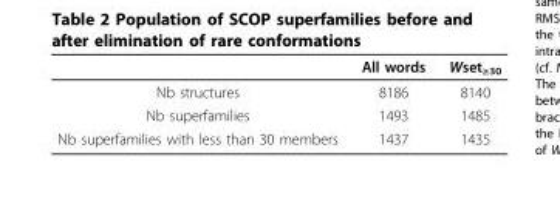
<table><thead><tr><td></td><td>All words</td><td>Wset<sub>≥30</sub></td></tr></thead><tbody><tr><td>Nb structures</td><td>8186</td><td>8140</td></tr><tr><td>Nb superfamilies</td><td>1493</td><td>1485</td></tr><tr><td>Nb superfamilies with less than 30 members</td><td>1437</td><td>1435</td></tr></tbody></table>